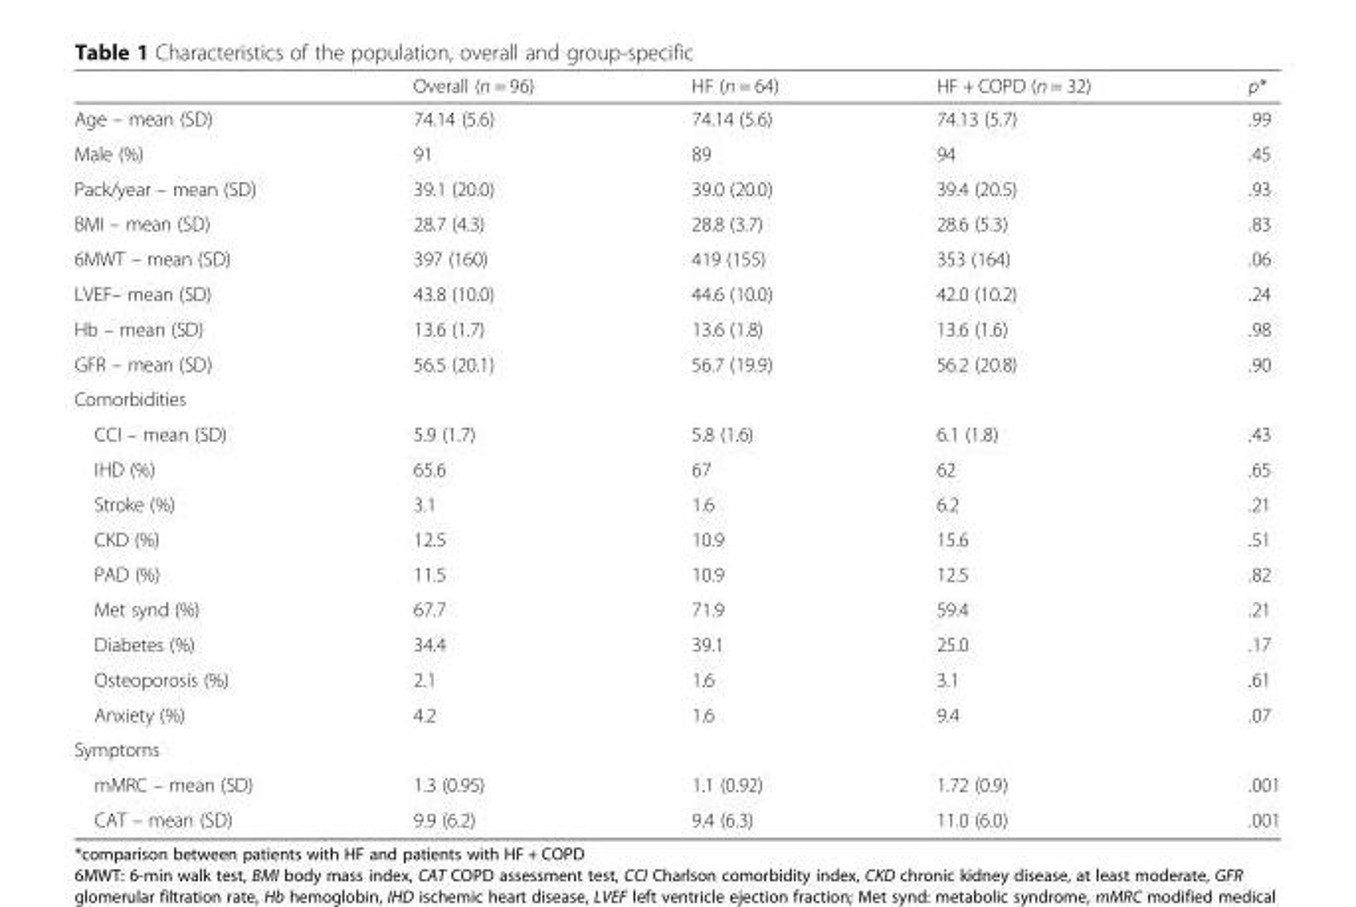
<table><thead><tr><td></td><td>Overall (n = 96)</td><td>HF (n = 64)</td><td>HF + COPD (n = 32)</td><td>p*</td></tr></thead><tbody><tr><td>Age – mean (SD)</td><td>74.14 (5.6)</td><td>74.14 (5.6)</td><td>74.13 (5.7)</td><td>.99</td></tr><tr><td>Male (%)</td><td>91</td><td>89</td><td>94</td><td>.45</td></tr><tr><td>Pack/year – mean (SD)</td><td>39.1 (20.0)</td><td>39.0 (20.0)</td><td>39.4 (20.5)</td><td>.93</td></tr><tr><td>BMI – mean (SD)</td><td>28.7 (4.3)</td><td>28.8 (3.7)</td><td>28.6 (5.3)</td><td>.83</td></tr><tr><td>6MWT – mean (SD)</td><td>397 (160)</td><td>419 (155)</td><td>353 (164)</td><td>.06</td></tr><tr><td>LVEF– mean (SD)</td><td>43.8 (10.0)</td><td>44.6 (10.0)</td><td>42.0 (10.2)</td><td>.24</td></tr><tr><td>Hb – mean (SD)</td><td>13.6 (1.7)</td><td>13.6 (1.8)</td><td>13.6 (1.6)</td><td>.98</td></tr><tr><td>GFR – mean (SD)</td><td>56.5 (20.1)</td><td>56.7 (19.9)</td><td>56.2 (20.8)</td><td>.90</td></tr><tr><td colspan="5">Comorbidities</td></tr><tr><td>CCI – mean (SD)</td><td>5.9 (1.7)</td><td>5.8 (1.6)</td><td>6.1 (1.8)</td><td>.43</td></tr><tr><td>IHD (%)</td><td>65.6</td><td>67</td><td>62</td><td>.65</td></tr><tr><td>Stroke (%)</td><td>3.1</td><td>1.6</td><td>6.2</td><td>.21</td></tr><tr><td>CKD (%)</td><td>12.5</td><td>10.9</td><td>15.6</td><td>.51</td></tr><tr><td>PAD (%)</td><td>11.5</td><td>10.9</td><td>12.5</td><td>.82</td></tr><tr><td>Met synd (%)</td><td>67.7</td><td>71.9</td><td>59.4</td><td>.21</td></tr><tr><td>Diabetes (%)</td><td>34.4</td><td>39.1</td><td>25.0</td><td>.17</td></tr><tr><td>Osteoporosis (%)</td><td>2.1</td><td>1.6</td><td>3.1</td><td>.61</td></tr><tr><td>Anxiety (%)</td><td>4.2</td><td>1.6</td><td>9.4</td><td>.07</td></tr><tr><td colspan="5">Symptoms</td></tr><tr><td>mMRC – mean (SD)</td><td>1.3 (0.95)</td><td>1.1 (0.92)</td><td>1.72 (0.9)</td><td>.001</td></tr><tr><td>CAT – mean (SD)</td><td>9.9 (6.2)</td><td>9.4 (6.3)</td><td>11.0 (6.0)</td><td>.001</td></tr></tbody></table>